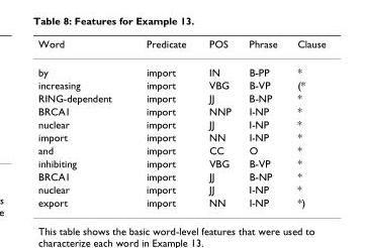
<table><thead><tr><td>Word</td><td>Predicate</td><td>POS</td><td>Phrase</td><td>Clause</td></tr></thead><tbody><tr><td>by</td><td>import</td><td>IN</td><td>B-PP</td><td>*</td></tr><tr><td>increasing</td><td>import</td><td>VBG</td><td>B-VP</td><td>(*</td></tr><tr><td>RING-dependent</td><td>import</td><td>JJ</td><td>B-NP</td><td>*</td></tr><tr><td>BRCA1</td><td>import</td><td>NNP</td><td>I-NP</td><td>*</td></tr><tr><td>nuclear</td><td>import</td><td>JJ</td><td>I-NP</td><td>*</td></tr><tr><td>import</td><td>import</td><td>NN</td><td>I-NP</td><td>*</td></tr><tr><td>and</td><td>import</td><td>CC</td><td>O</td><td>*</td></tr><tr><td>inhibiting</td><td>import</td><td>VBG</td><td>B-VP</td><td>*</td></tr><tr><td>BRCA1</td><td>import</td><td>JJ</td><td>B-NP</td><td>*</td></tr><tr><td>nuclear</td><td>import</td><td>JJ</td><td>I-NP</td><td>*</td></tr><tr><td>export</td><td>import</td><td>NN</td><td>I-NP</td><td>*)</td></tr></tbody></table>